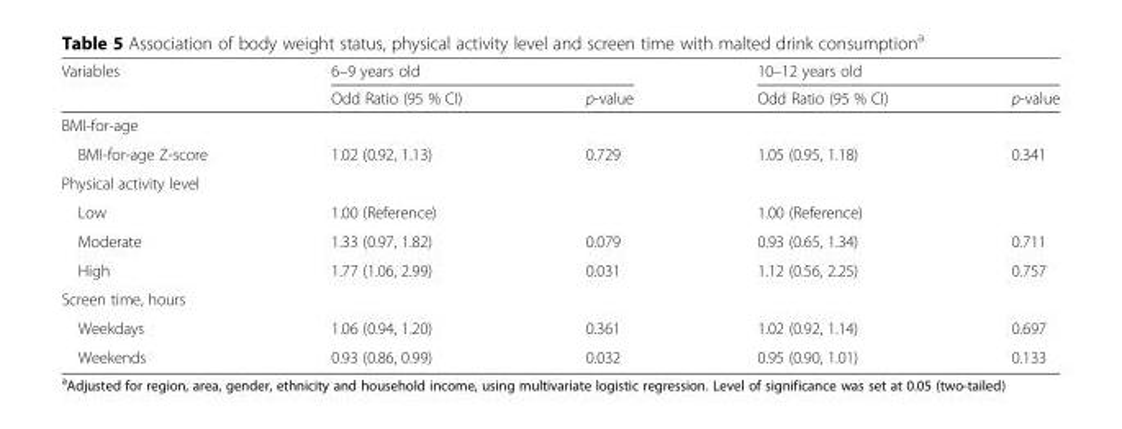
<table><thead><tr><td rowspan="2">Variables</td><td colspan="2">6–9 years old</td><td colspan="2">10–12 years old</td></tr><tr><td>Odd Ratio (95 % CI)</td><td>p-value</td><td>Odd Ratio (95 % CI)</td><td>p-value</td></tr></thead><tbody><tr><td colspan="5">BMI-for-age</td></tr><tr><td>BMI-for-age Z-score</td><td>1.02 (0.92, 1.13)</td><td>0.729</td><td>1.05 (0.95, 1.18)</td><td>0.341</td></tr><tr><td colspan="5">Physical activity level</td></tr><tr><td>Low</td><td>1.00 (Reference)</td><td></td><td>1.00 (Reference)</td><td></td></tr><tr><td>Moderate</td><td>1.33 (0.97, 1.82)</td><td>0.079</td><td>0.93 (0.65, 1.34)</td><td>0.711</td></tr><tr><td>High</td><td>1.77 (1.06, 2.99)</td><td>0.031</td><td>1.12 (0.56, 2.25)</td><td>0.757</td></tr><tr><td colspan="5">Screen time, hours</td></tr><tr><td>Weekdays</td><td>1.06 (0.94, 1.20)</td><td>0.361</td><td>1.02 (0.92, 1.14)</td><td>0.697</td></tr><tr><td>Weekends</td><td>0.93 (0.86, 0.99)</td><td>0.032</td><td>0.95 (0.90, 1.01)</td><td>0.133</td></tr></tbody></table>